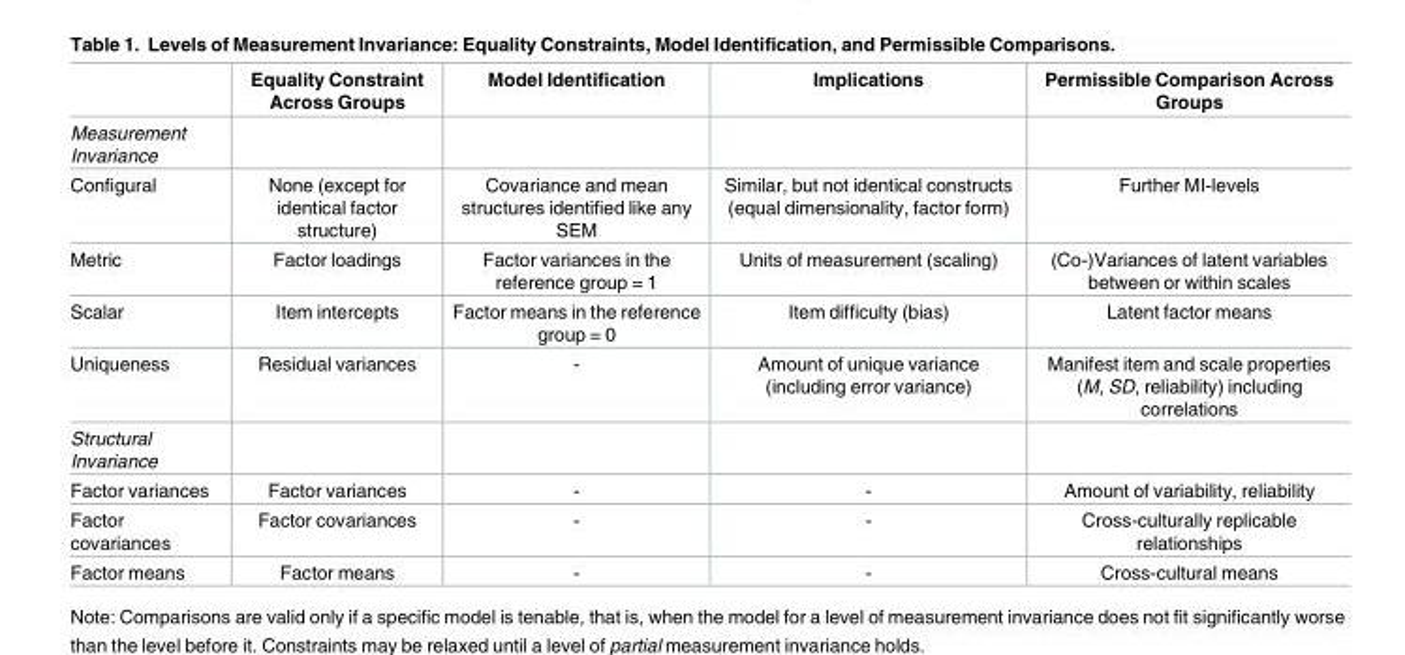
<table><thead><tr><td></td><td>Equality Constraint Across Groups</td><td>Model Identification</td><td>Implications</td><td>Permissible Comparison Across Groups</td></tr></thead><tbody><tr><td colspan="5">Measurement Invariance</td></tr><tr><td>Configural</td><td>None (except for identical factor structure)</td><td>Covariance and mean structures identified like any SEM</td><td>Similar, but not identical constructs (equal dimensionality, factor form)</td><td>Further MI-levels</td></tr><tr><td>Metric</td><td>Factor loadings</td><td>Factor variances in the reference group = 1</td><td>Units of measurement (scaling)</td><td>(Co-)Variances of latent variables between or within scales</td></tr><tr><td>Scalar</td><td>Item intercepts</td><td>Factor means in the reference group = 0</td><td>Item difficulty (bias)</td><td>Latent factor means</td></tr><tr><td>Uniqueness</td><td>Residual variances</td><td>-</td><td>Amount of unique variance (including error variance)</td><td>Manifest item and scale properties (M, SD, reliability) including correlations</td></tr><tr><td colspan="5">Structural Invariance</td></tr><tr><td>Factor variances</td><td>Factor variances</td><td>-</td><td>-</td><td>Amount of variability, reliability</td></tr><tr><td>Factor covariances</td><td>Factor covariances</td><td>-</td><td>-</td><td>Cross-culturally replicable relationships</td></tr><tr><td>Factor means</td><td>Factor means</td><td>-</td><td>-</td><td>Cross-cultural means</td></tr></tbody></table>